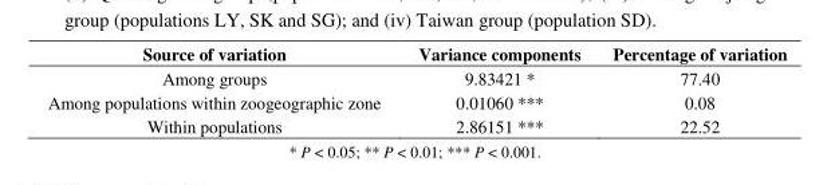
<table><thead><tr><td>Source of variation</td><td>Variance components</td><td>Percentage of variation</td></tr></thead><tbody><tr><td>Among groups</td><td>9.83421 *</td><td>77.40</td></tr><tr><td>Among populations within zoogeographic zone</td><td>0.01060 ***</td><td>0.08</td></tr><tr><td>Within populations</td><td>2.86151 ***</td><td>22.52</td></tr></tbody></table>